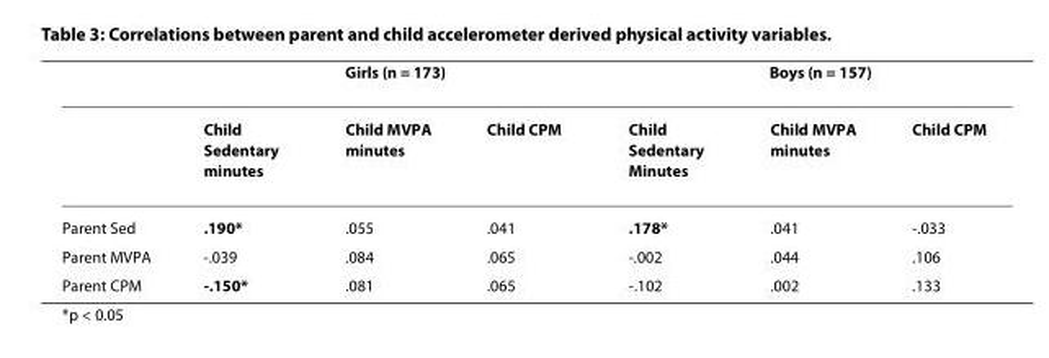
<table><thead><tr><td rowspan="2"></td><td colspan="3">Girls (n = 173)</td><td colspan="3">Boys (n = 157)</td></tr><tr><td>Child Sedentary minutes</td><td>Child MVPA minutes</td><td>Child CPM</td><td>Child Sedentary Minutes</td><td>Child MVPA minutes</td><td>Child CPM</td></tr></thead><tbody><tr><td>Parent Sed</td><td>.190*</td><td>.055</td><td>.041</td><td>.178*</td><td>.041</td><td>-.033</td></tr><tr><td>Parent MVPA</td><td>-.039</td><td>.084</td><td>.065</td><td>-.002</td><td>.044</td><td>.106</td></tr><tr><td>Parent CPM</td><td>-.150*</td><td>.081</td><td>.065</td><td>-.102</td><td>.002</td><td>.133</td></tr></tbody></table>